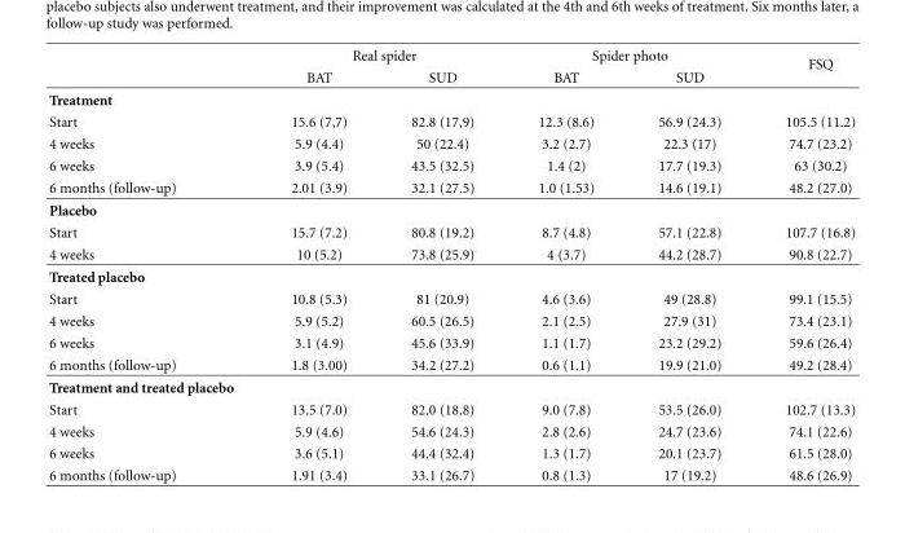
<table><thead><tr><td rowspan="2"></td><td colspan="2">Real spider</td><td colspan="2">Spider photo</td><td rowspan="2">FSQ</td></tr><tr><td>BAT</td><td>SUD</td><td>BAT</td><td>SUD</td></tr></thead><tbody><tr><td colspan="6">Treatment</td></tr><tr><td>Start</td><td>15.6 (7,7)</td><td>82.8 (17,9)</td><td>12.3 (8.6)</td><td>56.9 (24.3)</td><td>105.5 (11.2)</td></tr><tr><td>4 weeks</td><td>5.9 (4.4)</td><td>50 (22.4)</td><td>3.2 (2.7)</td><td>22.3 (17)</td><td>74.7 (23.2)</td></tr><tr><td>6 weeks</td><td>3.9 (5.4)</td><td>43.5 (32.5)</td><td>1.4 (2)</td><td>17.7 (19.3)</td><td>63 (30.2)</td></tr><tr><td>6 months (follow-up)</td><td>2.01 (3.9)</td><td>32.1 (27.5)</td><td>1.0 (1.53)</td><td>14.6 (19.1)</td><td>48.2 (27.0)</td></tr><tr><td colspan="6">Placebo</td></tr><tr><td>Start</td><td>15.7 (7.2)</td><td>80.8 (19.2)</td><td>8.7 (4.8)</td><td>57.1 (22.8)</td><td>107.7 (16.8)</td></tr><tr><td>4 weeks</td><td>10 (5.2)</td><td>73.8 (25.9)</td><td>4 (3.7)</td><td>44.2 (28.7)</td><td>90.8 (22.7)</td></tr><tr><td colspan="6">Treated placebo</td></tr><tr><td>Start</td><td>10.8 (5.3)</td><td>81 (20.9)</td><td>4.6 (3.6)</td><td>49 (28.8)</td><td>99.1 (15.5)</td></tr><tr><td>4 weeks</td><td>5.9 (5.2)</td><td>60.5 (26.5)</td><td>2.1 (2.5)</td><td>27.9 (31)</td><td>73.4 (23.1)</td></tr><tr><td>6 weeks</td><td>3.1 (4.9)</td><td>45.6 (33.9)</td><td>1.1 (1.7)</td><td>23.2 (29.2)</td><td>59.6 (26.4)</td></tr><tr><td>6 months (follow-up)</td><td>1.8 (3.00)</td><td>34.2 (27.2)</td><td>0.6 (1.1)</td><td>19.9 (21.0)</td><td>49.2 (28.4)</td></tr><tr><td colspan="6">Treatment and treated placebo</td></tr><tr><td>Start</td><td>13.5 (7.0)</td><td>82.0 (18.8)</td><td>9.0 (7.8)</td><td>53.5 (26.0)</td><td>102.7 (13.3)</td></tr><tr><td>4 weeks</td><td>5.9 (4.6)</td><td>54.6 (24.3)</td><td>2.8 (2.6)</td><td>24.7 (23.6)</td><td>74.1 (22.6)</td></tr><tr><td>6 weeks</td><td>3.6 (5.1)</td><td>44.4 (32.4)</td><td>1.3 (1.7)</td><td>20.1 (23.7)</td><td>61.5 (28.0)</td></tr><tr><td>6 months (follow-up)</td><td>1.91 (3.4)</td><td>33.1 (26.7)</td><td>0.8 (1.3)</td><td>17 (19.2)</td><td>48.6 (26.9)</td></tr></tbody></table>